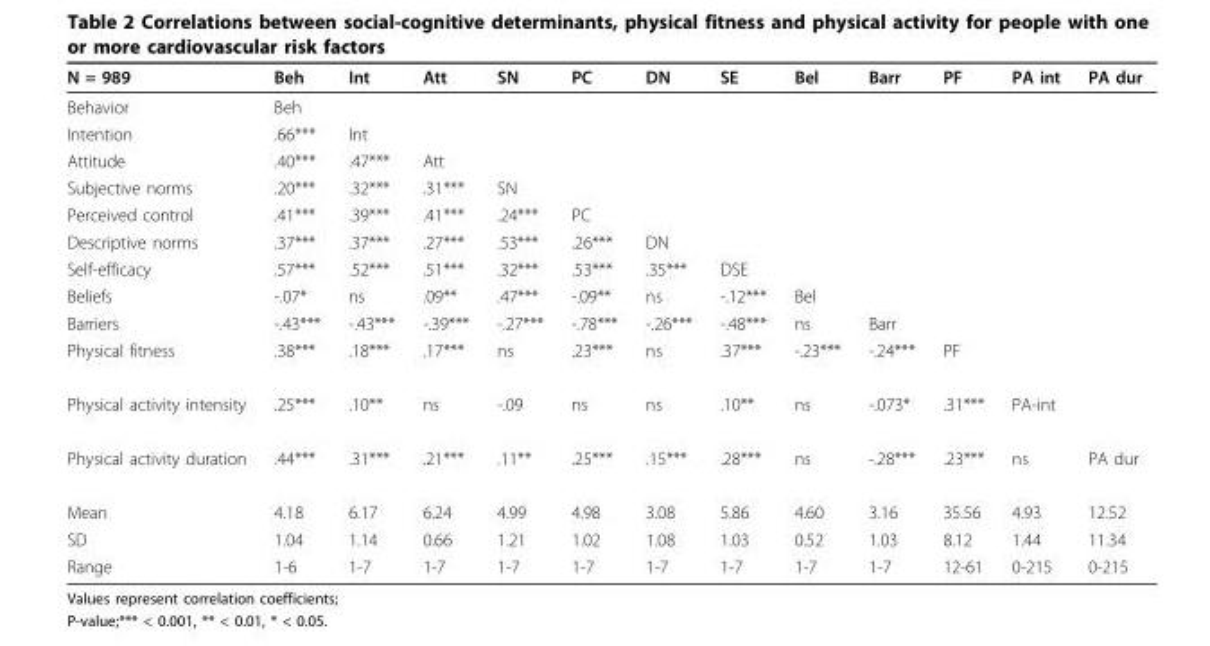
<table><thead><tr><td>N = 989</td><td>Beh</td><td>Int</td><td>Att</td><td>SN</td><td>PC</td><td>DN</td><td>SE</td><td>Bel</td><td>Barr</td><td>PF</td><td>PA int</td><td>PA dur</td></tr></thead><tbody><tr><td>Behavior</td><td>Beh</td><td></td><td></td><td></td><td></td><td></td><td></td><td></td><td></td><td></td><td></td><td></td></tr><tr><td>Intention</td><td>.66***</td><td>Int</td><td></td><td></td><td></td><td></td><td></td><td></td><td></td><td></td><td></td><td></td></tr><tr><td>Attitude</td><td>.40***</td><td>.47***</td><td>Att</td><td></td><td></td><td></td><td></td><td></td><td></td><td></td><td></td><td></td></tr><tr><td>Subjective norms</td><td>.20***</td><td>.32***</td><td>.31***</td><td>SN</td><td></td><td></td><td></td><td></td><td></td><td></td><td></td><td></td></tr><tr><td>Perceived control</td><td>.41***</td><td>.39***</td><td>.41***</td><td>.24***</td><td>PC</td><td></td><td></td><td></td><td></td><td></td><td></td><td></td></tr><tr><td>Descriptive norms</td><td>.37***</td><td>.37***</td><td>.27***</td><td>.53***</td><td>.26***</td><td>DN</td><td></td><td></td><td></td><td></td><td></td><td></td></tr><tr><td>Self-efficacy</td><td>.57***</td><td>.52***</td><td>.51***</td><td>.32***</td><td>.53***</td><td>.35***</td><td>DSE</td><td></td><td></td><td></td><td></td><td></td></tr><tr><td>Beliefs</td><td>-.07*</td><td>ns</td><td>.09**</td><td>.47***</td><td>-.09**</td><td>ns</td><td>-.12***</td><td>Bel</td><td></td><td></td><td></td><td></td></tr><tr><td>Barriers</td><td>-.43***</td><td>-.43***</td><td>-.39***</td><td>-.27***</td><td>-.78***</td><td>-.26***</td><td>-.48***</td><td>ns</td><td>Barr</td><td></td><td></td><td></td></tr><tr><td>Physical fitness</td><td>.38***</td><td>.18***</td><td>.17***</td><td>ns</td><td>.23***</td><td>ns</td><td>.37***</td><td>-.23***</td><td>-.24***</td><td>PF</td><td></td><td></td></tr><tr><td>Physical activity intensity</td><td>.25***</td><td>.10**</td><td>ns</td><td>-.09</td><td>ns</td><td>ns</td><td>.10**</td><td>ns</td><td>-.073*</td><td>.31***</td><td>PA-int</td><td></td></tr><tr><td>Physical activity duration</td><td>.44***</td><td>.31***</td><td>.21***</td><td>.11**</td><td>.25***</td><td>.15***</td><td>.28***</td><td>ns</td><td>-.28***</td><td>.23***</td><td>ns</td><td>PA dur</td></tr><tr><td>Mean</td><td>4.18</td><td>6.17</td><td>6.24</td><td>4.99</td><td>4.98</td><td>3.08</td><td>5.86</td><td>4.60</td><td>3.16</td><td>35.56</td><td>4.93</td><td>12.52</td></tr><tr><td>SD</td><td>1.04</td><td>1.14</td><td>0.66</td><td>1.21</td><td>1.02</td><td>1.08</td><td>1.03</td><td>0.52</td><td>1.03</td><td>8.12</td><td>1.44</td><td>11.34</td></tr><tr><td>Range</td><td>1-6</td><td>1-7</td><td>1-7</td><td>1-7</td><td>1-7</td><td>1-7</td><td>1-7</td><td>1-7</td><td>1-7</td><td>12-61</td><td>0-215</td><td>0-215</td></tr></tbody></table>